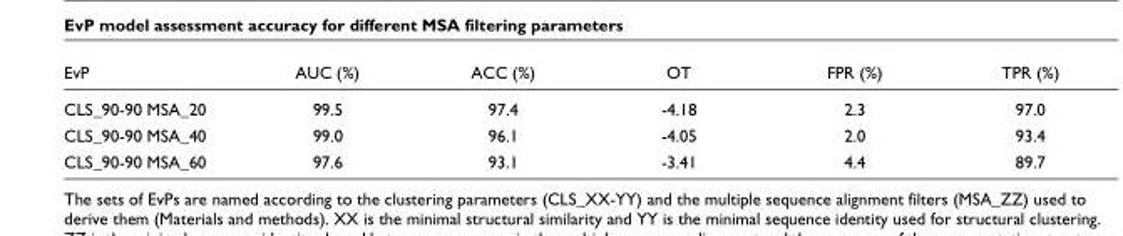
<table><thead><tr><td>EvP</td><td>AUC (%)</td><td>ACC (%)</td><td>OT</td><td>FPR (%)</td><td>TPR (%)</td></tr></thead><tbody><tr><td>CLS_90-90 MSA_20</td><td>99.5</td><td>97.4</td><td>-4.18</td><td>2.3</td><td>97.0</td></tr><tr><td>CLS_90-90 MSA_40</td><td>99.0</td><td>96.1</td><td>-4.05</td><td>2.0</td><td>93.4</td></tr><tr><td>CLS_90-90 MSA_60</td><td>97.6</td><td>93.1</td><td>-3.41</td><td>4.4</td><td>89.7</td></tr></tbody></table>